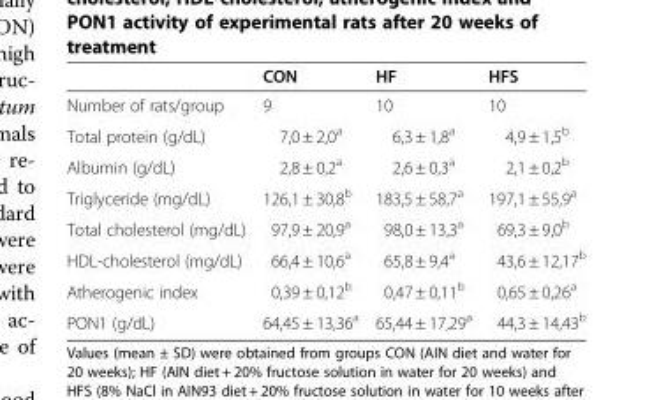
<table><thead><tr><td></td><td>CON</td><td>HF</td><td>HFS</td></tr></thead><tbody><tr><td>Number of rats/group</td><td>9</td><td>10</td><td>10</td></tr><tr><td>Total protein (g/dL)</td><td>7,0 ± 2,0<sup>a</sup></td><td>6,3 ± 1,8<sup>a</sup></td><td>4,9 ± 1,5<sup>b</sup></td></tr><tr><td>Albumin (g/dL)</td><td>2,8 ± 0,2<sup>a</sup></td><td>2,6 ± 0,3<sup>a</sup></td><td>2,1 ± 0,2<sup>b</sup></td></tr><tr><td>Triglyceride (mg/dL)</td><td>126,1 ± 30,8<sup>b</sup></td><td>183,5 ± 58,7<sup>a</sup></td><td>197,1 ± 55,9<sup>a</sup></td></tr><tr><td>Total cholesterol (mg/dL)</td><td>97,9 ± 20,9<sup>a</sup></td><td>98,0 ± 13,3<sup>a</sup></td><td>69,3 ± 9,0<sup>b</sup></td></tr><tr><td>HDL-cholesterol (mg/dL)</td><td>66,4 ± 10,6<sup>a</sup></td><td>65,8 ± 9,4<sup>a</sup></td><td>43,6 ± 12,17<sup>b</sup></td></tr><tr><td>Atherogenic index</td><td>0,39 ± 0,12<sup>b</sup></td><td>0,47 ± 0,11<sup>b</sup></td><td>0,65 ± 0,26<sup>a</sup></td></tr><tr><td>PON1 (g/dL)</td><td>64,45 ± 13,36<sup>a</sup></td><td>65,44 ± 17,29<sup>a</sup></td><td>44,3 ± 14,43<sup>b</sup></td></tr></tbody></table>